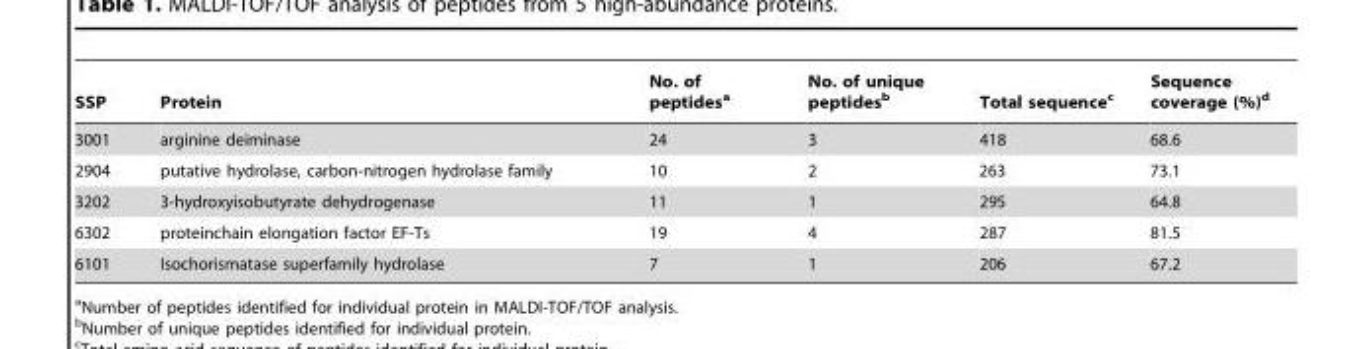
<table><thead><tr><td>SSP</td><td>Protein</td><td>No. of peptides<sup>a</sup></td><td>No. of unique peptides<sup>b</sup></td><td>Total sequence<sup>c</sup></td><td>Sequence coverage (%)<sup>d</sup></td></tr></thead><tbody><tr><td>3001</td><td>arginine deiminase</td><td>24</td><td>3</td><td>418</td><td>68.6</td></tr><tr><td>2904</td><td>putative hydrolase, carbon-nitrogen hydrolase family</td><td>10</td><td>2</td><td>263</td><td>73.1</td></tr><tr><td>3202</td><td>3-hydroxyisobutyrate dehydrogenase</td><td>11</td><td>1</td><td>295</td><td>64.8</td></tr><tr><td>6302</td><td>proteinchain elongation factor EF-Ts</td><td>19</td><td>4</td><td>287</td><td>81.5</td></tr><tr><td>6101</td><td>Isochorismatase superfamily hydrolase</td><td>7</td><td>1</td><td>206</td><td>67.2</td></tr></tbody></table>